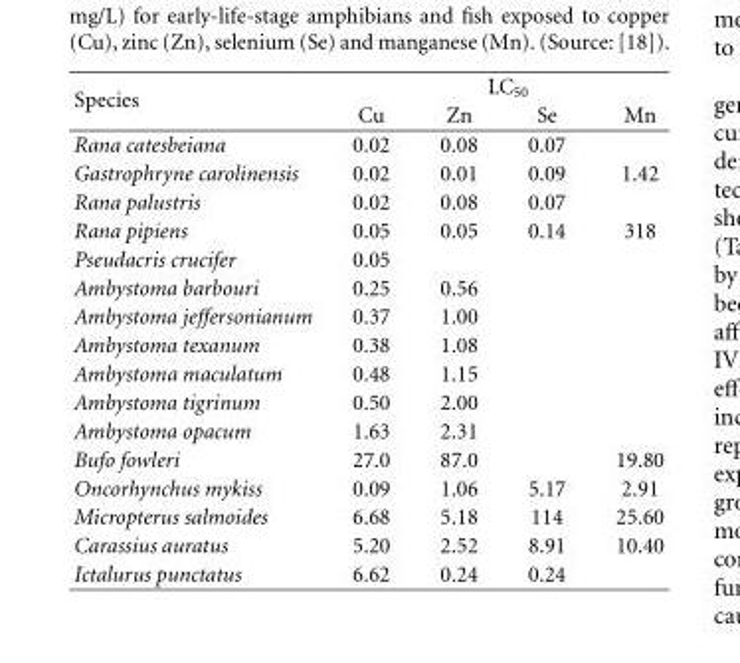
<table><thead><tr><td rowspan="2">Species</td><td colspan="4">LC<sub>50</sub></td></tr><tr><td>Cu</td><td>Zn</td><td>Se</td><td>Mn</td></tr></thead><tbody><tr><td>Rana catesbeiana</td><td>0.02</td><td>0.08</td><td>0.07</td><td></td></tr><tr><td>Gastrophryne carolinensis</td><td>0.02</td><td>0.01</td><td>0.09</td><td>1.42</td></tr><tr><td>Rana palustris</td><td>0.02</td><td>0.08</td><td>0.07</td><td></td></tr><tr><td>Rana pipiens</td><td>0.05</td><td>0.05</td><td>0.14</td><td>318</td></tr><tr><td>Pseudacris crucifer</td><td>0.05</td><td></td><td></td><td></td></tr><tr><td>Ambystoma barbouri</td><td>0.25</td><td>0.56</td><td></td><td></td></tr><tr><td>Ambystoma jeffersonianum</td><td>0.37</td><td>1.00</td><td></td><td></td></tr><tr><td>Ambystoma texanum</td><td>0.38</td><td>1.08</td><td></td><td></td></tr><tr><td>Ambystoma maculatum</td><td>0.48</td><td>1.15</td><td></td><td></td></tr><tr><td>Ambystoma tigrinum</td><td>0.50</td><td>2.00</td><td></td><td></td></tr><tr><td>Ambystoma opacum</td><td>1.63</td><td>2.31</td><td></td><td></td></tr><tr><td>Bufo fowleri</td><td>27.0</td><td>87.0</td><td></td><td>19.80</td></tr><tr><td>Oncorhynchus mykiss</td><td>0.09</td><td>1.06</td><td>5.17</td><td>2.91</td></tr><tr><td>Micropterus salmoides</td><td>6.68</td><td>5.18</td><td>114</td><td>25.60</td></tr><tr><td>Carassius auratus</td><td>5.20</td><td>2.52</td><td>8.91</td><td>10.40</td></tr><tr><td>Ictalurus punctatus</td><td>6.62</td><td>0.24</td><td>0.24</td><td></td></tr></tbody></table>